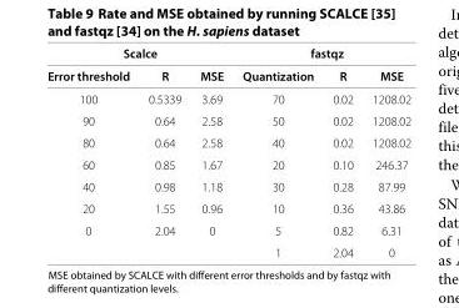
<table><thead><tr><td colspan="3">Scalce</td><td colspan="3">fastqz</td></tr><tr><td>Error threshold</td><td>R</td><td>MSE</td><td>Quantization</td><td>R</td><td>MSE</td></tr></thead><tbody><tr><td>100</td><td>0.5339</td><td>3.69</td><td>70</td><td>0.02</td><td>1208.02</td></tr><tr><td>90</td><td>0.64</td><td>2.58</td><td>50</td><td>0.02</td><td>1208.02</td></tr><tr><td>80</td><td>0.64</td><td>2.58</td><td>40</td><td>0.02</td><td>1208.02</td></tr><tr><td>60</td><td>0.85</td><td>1.67</td><td>20</td><td>0.10</td><td>246.37</td></tr><tr><td>40</td><td>0.98</td><td>1.18</td><td>30</td><td>0.28</td><td>87.99</td></tr><tr><td>20</td><td>1.55</td><td>0.96</td><td>10</td><td>0.36</td><td>43.86</td></tr><tr><td rowspan="2">0</td><td>2.04</td><td>0</td><td>5</td><td>0.82</td><td>6.31</td></tr><tr><td></td><td></td><td>1</td><td>2.04</td><td>0</td></tr></tbody></table>